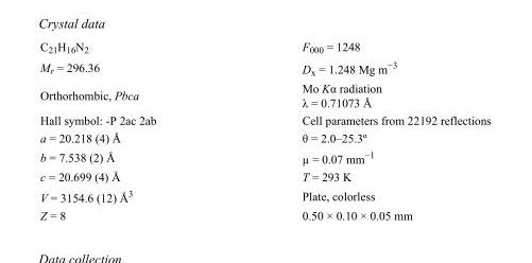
<table><tbody><tr><td>C<sub>21</sub>H<sub>16</sub>N<sub>2</sub></td><td>F000 = 1248</td></tr><tr><td>M<sub>r</sub> = 296.36</td><td>D<sub>x</sub> = 1.248 Mg m<sup>−3</sup></td></tr><tr><td>Orthorhombic, Pbca</td><td>Mo Kα radiation λ = 0.71073 Å</td></tr><tr><td>Hall symbol: -P 2ac 2ab</td><td>Cell parameters from 22192 reflections</td></tr><tr><td>a = 20.218 (4) Å</td><td>θ = 2.0–25.3º</td></tr><tr><td>b = 7.538 (2) Å</td><td>µ = 0.07 mm<sup>−1</sup></td></tr><tr><td>c = 20.699 (4) Å</td><td>T = 293 K</td></tr><tr><td>V = 3154.6 (12) Å<sup>3</sup></td><td>Plate, colorless</td></tr><tr><td>Z = 8</td><td>0.50 × 0.10 × 0.05 mm</td></tr></tbody></table>